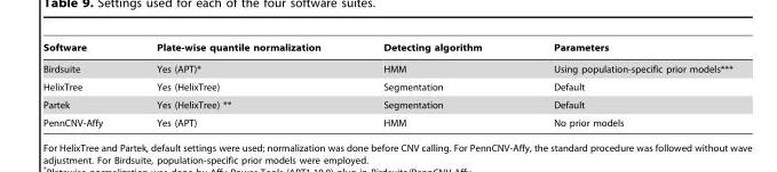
<table><thead><tr><td>Software</td><td>Plate-wise quantile normalization</td><td>Detecting algorithm</td><td>Parameters</td></tr></thead><tbody><tr><td>Birdsuite</td><td>Yes (APT)*</td><td>HMM</td><td>Using population-specific prior models***</td></tr><tr><td>HelixTree</td><td>Yes (HelixTree)</td><td>Segmentation</td><td>Default</td></tr><tr><td>Partek</td><td>Yes (HelixTree) **</td><td>Segmentation</td><td>Default</td></tr><tr><td>PennCNV-Affy</td><td>Yes (APT)</td><td>HMM</td><td>No prior models</td></tr></tbody></table>